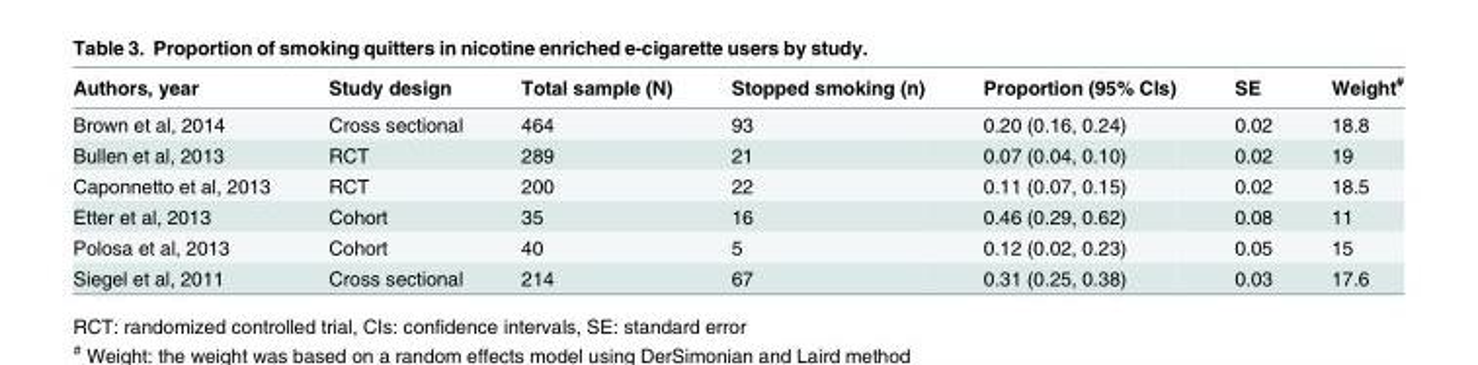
<table><thead><tr><td>Authors, year</td><td>Study design</td><td>Total sample (N)</td><td>Stopped smoking (n)</td><td>Proportion (95% CIs)</td><td>SE</td><td>Weight<sup>#</sup></td></tr></thead><tbody><tr><td>Brown et al, 2014</td><td>Cross sectional</td><td>464</td><td>93</td><td>0.20 (0.16, 0.24)</td><td>0.02</td><td>18.8</td></tr><tr><td>Bullen et al, 2013</td><td>RCT</td><td>289</td><td>21</td><td>0.07 (0.04, 0.10)</td><td>0.02</td><td>19</td></tr><tr><td>Caponnetto et al, 2013</td><td>RCT</td><td>200</td><td>22</td><td>0.11 (0.07, 0.15)</td><td>0.02</td><td>18.5</td></tr><tr><td>Etter et al, 2013</td><td>Cohort</td><td>35</td><td>16</td><td>0.46 (0.29, 0.62)</td><td>0.08</td><td>11</td></tr><tr><td>Polosa et al, 2013</td><td>Cohort</td><td>40</td><td>5</td><td>0.12 (0.02, 0.23)</td><td>0.05</td><td>15</td></tr><tr><td>Siegel et al, 2011</td><td>Cross sectional</td><td>214</td><td>67</td><td>0.31 (0.25, 0.38)</td><td>0.03</td><td>17.6</td></tr></tbody></table>